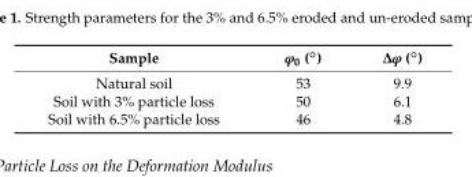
<table><thead><tr><td>Sample</td><td>ϕ0 (◦)</td><td>∆ϕ (◦)</td></tr></thead><tbody><tr><td>Natural soil</td><td>53</td><td>9.9</td></tr><tr><td>Soil with 3% particle loss</td><td>50</td><td>6.1</td></tr><tr><td>Soil with 6.5% particle loss</td><td>46</td><td>4.8</td></tr></tbody></table>